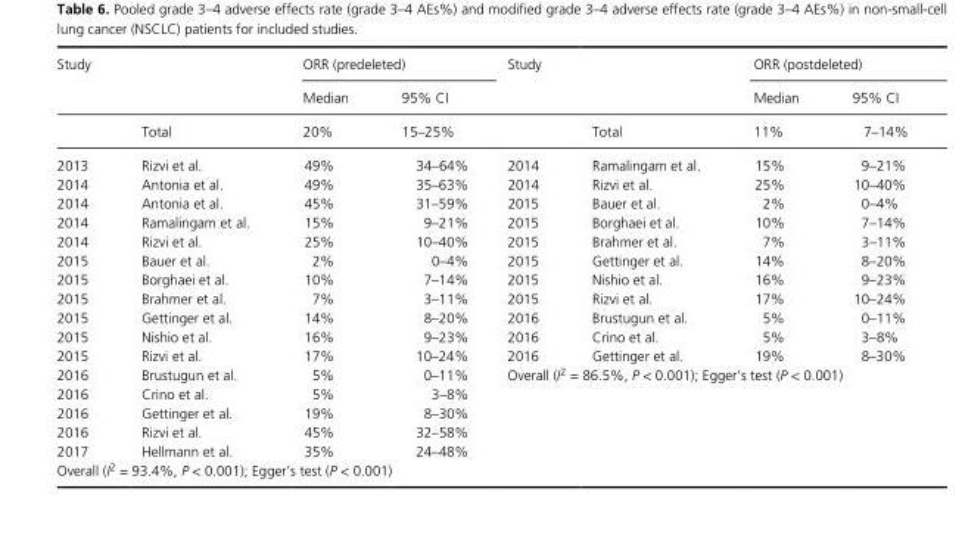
<table><thead><tr><td rowspan="2" colspan="2">Study</td><td colspan="2">ORR (predeleted)</td><td rowspan="2" colspan="2">Study</td><td colspan="2">ORR (postdeleted)</td></tr><tr><td rowspan="2">Median 20%</td><td rowspan="2">95% CI 15–25%</td><td rowspan="2">Median 11%</td><td rowspan="2">95% CI 7–14%</td></tr><tr><td></td><td>Total</td><td></td><td>Total</td></tr></thead><tbody><tr><td>2013</td><td>Rizvi et al.</td><td>49%</td><td>34–64%</td><td>2014</td><td>Ramalingam et al.</td><td>15%</td><td>9–21%</td></tr><tr><td>2014</td><td>Antonia et al.</td><td>49%</td><td>35–63%</td><td>2014</td><td>Rizvi et al.</td><td>25%</td><td>10–40%</td></tr><tr><td>2014</td><td>Antonia et al.</td><td>45%</td><td>31–59%</td><td>2015</td><td>Bauer et al.</td><td>2%</td><td>0–4%</td></tr><tr><td>2014</td><td>Ramalingam et al.</td><td>15%</td><td>9–21%</td><td>2015</td><td>Borghaei et al.</td><td>10%</td><td>7–14%</td></tr><tr><td>2014</td><td>Rizvi et al.</td><td>25%</td><td>10–40%</td><td>2015</td><td>Brahmer et al.</td><td>7%</td><td>3–11%</td></tr><tr><td>2015</td><td>Bauer et al.</td><td>2%</td><td>0–4%</td><td>2015</td><td>Gettinger et al.</td><td>14%</td><td>8–20%</td></tr><tr><td>2015</td><td>Borghaei et al.</td><td>10%</td><td>7–14%</td><td>2015</td><td>Nishio et al.</td><td>16%</td><td>9–23%</td></tr><tr><td>2015</td><td>Brahmer et al.</td><td>7%</td><td>3–11%</td><td>2015</td><td>Rizvi et al.</td><td>17%</td><td>10–24%</td></tr><tr><td>2015</td><td>Gettinger et al.</td><td>14%</td><td>8–20%</td><td>2016</td><td>Brustugun et al.</td><td>5%</td><td>0–11%</td></tr><tr><td>2015</td><td>Nishio et al.</td><td>16%</td><td>9–23%</td><td>2016</td><td>Crino et al.</td><td>5%</td><td>3–8%</td></tr><tr><td>2015</td><td>Rizvi et al.</td><td>17%</td><td>10–24%</td><td>2016</td><td>Gettinger et al.</td><td>19%</td><td>8–30%</td></tr><tr><td>2016</td><td>Brustugun et al.</td><td>5%</td><td>0–11%</td><td colspan="4">Overall (I<sup>2</sup> = 86.5%, P &lt; 0.001); Egger’s test (P &lt; 0.001)</td></tr><tr><td>2016</td><td>Crino et al.</td><td>5%</td><td>3–8%</td><td></td><td></td><td></td><td></td></tr><tr><td>2016</td><td>Gettinger et al.</td><td>19%</td><td>8–30%</td><td></td><td></td><td></td><td></td></tr><tr><td>2016</td><td>Rizvi et al.</td><td>45%</td><td>32–58%</td><td></td><td></td><td></td><td></td></tr><tr><td>2017</td><td>Hellmann et al.</td><td>35%</td><td>24–48%</td><td></td><td></td><td></td><td></td></tr><tr><td colspan="4">Overall (I<sup>2</sup> = 93.4%, P &lt; 0.001); Egger’s test (P &lt; 0.001)</td><td></td><td></td><td></td><td></td></tr></tbody></table>